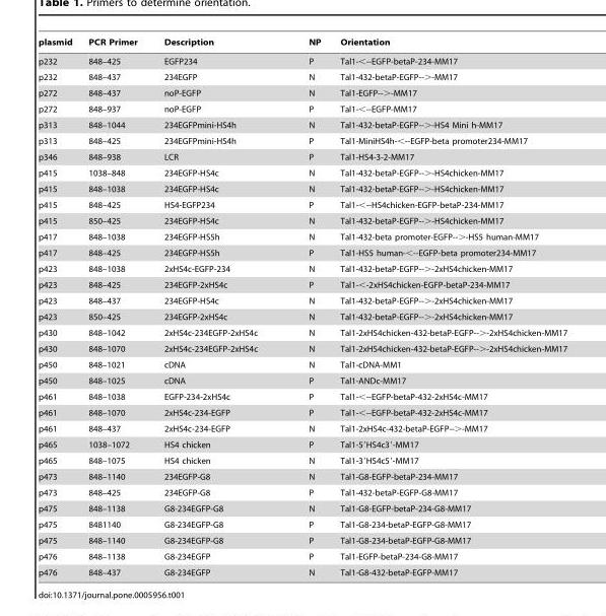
<table><thead><tr><td>plasmid</td><td>PCR Primer</td><td>Description</td><td>NP</td><td>Orientation</td></tr></thead><tbody><tr><td>p232</td><td>848–425</td><td>EGFP234</td><td>P</td><td>Tal1-&lt;--EGFP-betaP-234-MM17</td></tr><tr><td>p232</td><td>848–437</td><td>234EGFP</td><td>N</td><td>Tal1-432-betaP-EGFP--&gt;-MM17</td></tr><tr><td>p272</td><td>848–437</td><td>noP-EGFP</td><td>N</td><td>Tal1-EGFP--&gt;-MM17</td></tr><tr><td>p272</td><td>848–937</td><td>noP-EGFP</td><td>P</td><td>Tal1-&lt;--EGFP-MM17</td></tr><tr><td>p313</td><td>848–1044</td><td>234EGFPmini-HS4h</td><td>N</td><td>Tal1-432-betaP-EGFP--&gt;-HS4 Mini h-MM17</td></tr><tr><td>p313</td><td>848–425</td><td>234EGFPmini-HS4h</td><td>P</td><td>Tal1-MiniHS4h-&lt;--EGFP-beta promoter234-MM17</td></tr><tr><td>p346</td><td>848–938</td><td>LCR</td><td>P</td><td>Tal1-HS4-3-2-MM17</td></tr><tr><td>p415</td><td>1038–848</td><td>234EGFP-HS4c</td><td>N</td><td>Tal1-432-betaP-EGFP--&gt;-HS4chicken-MM17</td></tr><tr><td>p415</td><td>848–1038</td><td>234EGFP-HS4c</td><td>N</td><td>Tal1-432-betaP-EGFP--&gt;-HS4chicken-MM17</td></tr><tr><td>p415</td><td>848–425</td><td>HS4-EGFP234</td><td>P</td><td>Tal1-&lt;--HS4chicken-EGFP-betaP-234-MM17</td></tr><tr><td>p415</td><td>850–425</td><td>234EGFP-HS4c</td><td>N</td><td>Tal1-432-betaP-EGFP--&gt;-HS4chicken-MM17</td></tr><tr><td>p417</td><td>848–1038</td><td>234EGFP-HS5h</td><td>N</td><td>Tal1-432-beta promoter-EGFP--&gt;-HS5 human-MM17</td></tr><tr><td>p417</td><td>848–425</td><td>234EGFP-HS5h</td><td>P</td><td>Tal1-HS5 human-&lt;--EGFP-beta promoter234-MM17</td></tr><tr><td>p423</td><td>848–1038</td><td>2xHS4c-EGFP-234</td><td>N</td><td>Tal1-432-betaP-EGFP--&gt;-2xHS4chicken-MM17</td></tr><tr><td>p423</td><td>848–425</td><td>234EGFP-2xHS4c</td><td>P</td><td>Tal1-&lt;-2xHS4chicken-EGFP-betaP-234-MM17</td></tr><tr><td>p423</td><td>848–437</td><td>234EGFP-HS4c</td><td>N</td><td>Tal1-432-betaP-EGFP--&gt;-2xHS4chicken-MM17</td></tr><tr><td>p423</td><td>850–425</td><td>234EGFP-2xHS4c</td><td>N</td><td>Tal1-432-betaP-EGFP--&gt;-2xHS4chicken-MM17</td></tr><tr><td>p430</td><td>848–1042</td><td>2xHS4c-234EGFP-2xHS4c</td><td>N</td><td>Tal1-2xHS4chicken-432-betaP-EGFP--&gt;-2xHS4chicken-MM17</td></tr><tr><td>p430</td><td>848–1070</td><td>2xHS4c-234EGFP-2xHS4c</td><td>N</td><td>Tal1-2xHS4chicken-432-betaP-EGFP--&gt;-2xHS4chicken-MM17</td></tr><tr><td>p450</td><td>848–1021</td><td>cDNA</td><td>N</td><td>Tal1-cDNA-MM1</td></tr><tr><td>p450</td><td>848–1025</td><td>cDNA</td><td>P</td><td>Tal1-ANDc-MM17</td></tr><tr><td>p461</td><td>848–1038</td><td>EGFP-234-2xHS4c</td><td>P</td><td>Tal1-&lt;--EGFP-betaP-432-2xHS4c-MM17</td></tr><tr><td>p461</td><td>848–1070</td><td>2xHS4c-234-EGFP</td><td>P</td><td>Tal1-&lt;--EGFP-betaP-432-2xHS4c-MM17</td></tr><tr><td>p461</td><td>848–437</td><td>2xHS4c-234-EGFP</td><td>N</td><td>Tal1-2xHS4c-432-betaP-EGFP--&gt;-MM17</td></tr><tr><td>p465</td><td>1038–1072</td><td>HS4 chicken</td><td>P</td><td>Tal1-5′HS4c3′-MM17</td></tr><tr><td>p465</td><td>848–1075</td><td>HS4 chicken</td><td>N</td><td>Tal1-3′HS4c5′-MM17</td></tr><tr><td>p473</td><td>848–1140</td><td>234EGFP-G8</td><td>N</td><td>Tal1-G8-EGFP-betaP-234-MM17</td></tr><tr><td>p473</td><td>848–425</td><td>234EGFP-G8</td><td>P</td><td>Tal1-432-betaP-EGFP-G8-MM17</td></tr><tr><td>p475</td><td>848–1138</td><td>G8-234EGFP-G8</td><td>N</td><td>Tal1-G8-EGFP-betaP-234-G8-MM17</td></tr><tr><td>p475</td><td>8481140</td><td>G8-234EGFP-G8</td><td>P</td><td>Tal1-G8-234-betaP-EGFP-G8-MM17</td></tr><tr><td>p475</td><td>848–1140</td><td>G8-234EGFP-G8</td><td>P</td><td>Tal1-G8-234-betaP-EGFP-G8-MM17</td></tr><tr><td>p476</td><td>848–1138</td><td>G8-234EGFP</td><td>P</td><td>Tal1-EGFP-betaP-234-G8-MM17</td></tr><tr><td>p476</td><td>848–437</td><td>G8-234EGFP</td><td>N</td><td>Tal1-G8-432-betaP-EGFP-MM17</td></tr></tbody></table>